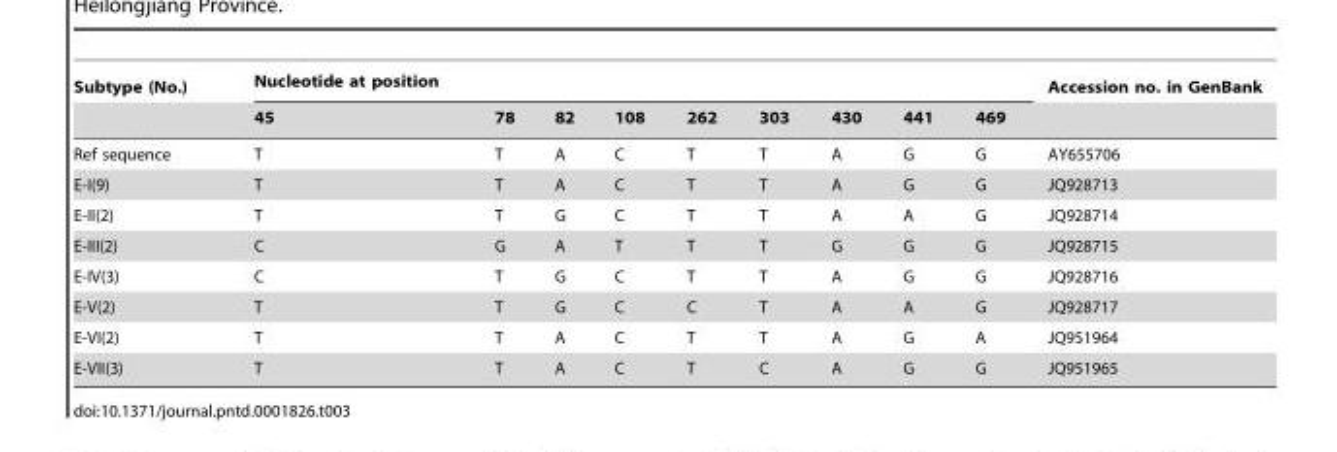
<table><thead><tr><td rowspan="2">Subtype (No.)</td><td colspan="9">Nucleotide at position</td><td rowspan="2">Accession no. in GenBank</td></tr><tr><td>45</td><td>78</td><td>82</td><td>108</td><td>262</td><td>303</td><td>430</td><td>441</td><td>469</td></tr></thead><tbody><tr><td>Ref sequence</td><td>T</td><td>T</td><td>A</td><td>C</td><td>T</td><td>T</td><td>A</td><td>G</td><td>G</td><td>AY655706</td></tr><tr><td>E-I(9)</td><td>T</td><td>T</td><td>A</td><td>C</td><td>T</td><td>T</td><td>A</td><td>G</td><td>G</td><td>JQ928713</td></tr><tr><td>E-II(2)</td><td>T</td><td>T</td><td>G</td><td>C</td><td>T</td><td>T</td><td>A</td><td>A</td><td>G</td><td>JQ928714</td></tr><tr><td>E-III(2)</td><td>C</td><td>G</td><td>A</td><td>T</td><td>T</td><td>T</td><td>G</td><td>G</td><td>G</td><td>JQ928715</td></tr><tr><td>E-IV(3)</td><td>C</td><td>T</td><td>G</td><td>C</td><td>T</td><td>T</td><td>A</td><td>G</td><td>G</td><td>JQ928716</td></tr><tr><td>E-V(2)</td><td>T</td><td>T</td><td>G</td><td>C</td><td>C</td><td>T</td><td>A</td><td>A</td><td>G</td><td>JQ928717</td></tr><tr><td>E-VI(2)</td><td>T</td><td>T</td><td>A</td><td>C</td><td>T</td><td>T</td><td>A</td><td>G</td><td>A</td><td>JQ951964</td></tr><tr><td>E-VII(3)</td><td>T</td><td>T</td><td>A</td><td>C</td><td>T</td><td>C</td><td>A</td><td>G</td><td>G</td><td>JQ951965</td></tr></tbody></table>